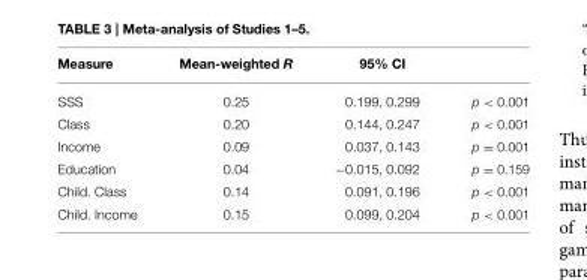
<table><thead><tr><td>Measure</td><td>Mean-weighted R</td><td>95% CI</td><td></td></tr></thead><tbody><tr><td>SSS</td><td>0.25</td><td>0.199, 0.299</td><td>p &lt; 0.001</td></tr><tr><td>Class</td><td>0.20</td><td>0.144, 0.247</td><td>p &lt; 0.001</td></tr><tr><td>Income</td><td>0.09</td><td>0.037, 0.143</td><td>p = 0.001</td></tr><tr><td>Education</td><td>0.04</td><td>−0.015, 0.092</td><td>p = 0.159</td></tr><tr><td>Child. Class</td><td>0.14</td><td>0.091, 0.196</td><td>p &lt; 0.001</td></tr><tr><td>Child. Income</td><td>0.15</td><td>0.099, 0.204</td><td>p &lt; 0.001</td></tr></tbody></table>